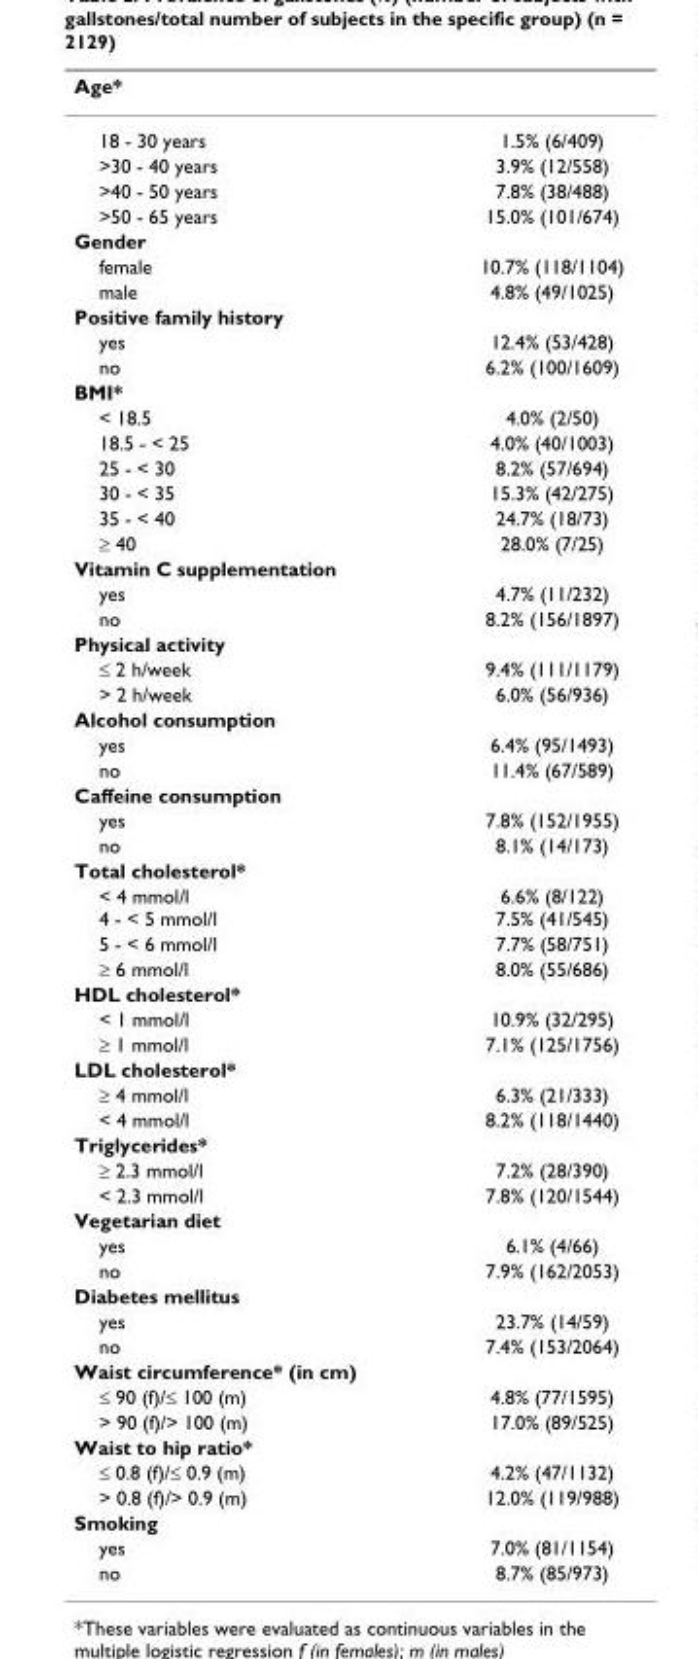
<table><thead><tr><td>Age*</td><td></td></tr></thead><tbody><tr><td>18 - 30 years</td><td>1.5% (6/409)</td></tr><tr><td>&gt;30 - 40 years</td><td>3.9% (12/558)</td></tr><tr><td>&gt;40 - 50 years</td><td>7.8% (38/488)</td></tr><tr><td>&gt;50 - 65 years</td><td>15.0% (101/674)</td></tr><tr><td colspan="2">Gender</td></tr><tr><td>female</td><td>10.7% (118/1104)</td></tr><tr><td>male</td><td>4.8% (49/1025)</td></tr><tr><td colspan="2">Positive family history</td></tr><tr><td>yes</td><td>12.4% (53/428)</td></tr><tr><td>no</td><td>6.2% (100/1609)</td></tr><tr><td colspan="2">BMI*</td></tr><tr><td>&lt; 18.5</td><td>4.0% (2/50)</td></tr><tr><td>18.5 - &lt; 25</td><td>4.0% (40/1003)</td></tr><tr><td>25 - &lt; 30</td><td>8.2% (57/694)</td></tr><tr><td>30 - &lt; 35</td><td>15.3% (42/275)</td></tr><tr><td>35 - &lt; 40</td><td>24.7% (18/73)</td></tr><tr><td>≥ 40</td><td>28.0% (7/25)</td></tr><tr><td colspan="2">Vitamin C supplementation</td></tr><tr><td>yes</td><td>4.7% (11/232)</td></tr><tr><td>no</td><td>8.2% (156/1897)</td></tr><tr><td colspan="2">Physical activity</td></tr><tr><td>≤ 2 h/week</td><td>9.4% (111/1179)</td></tr><tr><td>&gt; 2 h/week</td><td>6.0% (56/936)</td></tr><tr><td colspan="2">Alcohol consumption</td></tr><tr><td>yes</td><td>6.4% (95/1493)</td></tr><tr><td>no</td><td>11.4% (67/589)</td></tr><tr><td colspan="2">Caffeine consumption</td></tr><tr><td>yes</td><td>7.8% (152/1955)</td></tr><tr><td>no</td><td>8.1% (14/173)</td></tr><tr><td colspan="2">Total cholesterol*</td></tr><tr><td>&lt; 4 mmol/l 4 - &lt; 5 mmol/l</td><td>6.6% (8/122) 7.5% (41/545)</td></tr><tr><td>5 - &lt; 6 mmol/l</td><td>7.7% (58/751)</td></tr><tr><td>≥ 6 mmol/l</td><td>8.0% (55/686)</td></tr><tr><td colspan="2">HDL cholesterol*</td></tr><tr><td>&lt; 1 mmol/l</td><td>10.9% (32/295)</td></tr><tr><td>≥ 1 mmol/l</td><td>7.1% (125/1756)</td></tr><tr><td colspan="2">LDL cholesterol*</td></tr><tr><td>≥ 4 mmol/l</td><td>6.3% (21/333)</td></tr><tr><td>&lt; 4 mmol/l</td><td>8.2% (118/1440)</td></tr><tr><td colspan="2">Triglycerides*</td></tr><tr><td>≥ 2.3 mmol/l</td><td>7.2% (28/390)</td></tr><tr><td>&lt; 2.3 mmol/l</td><td>7.8% (120/1544)</td></tr><tr><td colspan="2">Vegetarian diet</td></tr><tr><td>yes</td><td>6.1% (4/66)</td></tr><tr><td>no</td><td>7.9% (162/2053)</td></tr><tr><td colspan="2">Diabetes mellitus</td></tr><tr><td>yes</td><td>23.7% (14/59)</td></tr><tr><td>no</td><td>7.4% (153/2064)</td></tr><tr><td colspan="2">Waist circumference* (in cm)</td></tr><tr><td>≤ 90 (f)/≤ 100 (m)</td><td>4.8% (77/1595)</td></tr><tr><td>&gt; 90 (f)/&gt; 100 (m)</td><td>17.0% (89/525)</td></tr><tr><td colspan="2">Waist to hip ratio*</td></tr><tr><td>≤ 0.8 (f)/≤ 0.9 (m)</td><td>4.2% (47/1132)</td></tr><tr><td>&gt; 0.8 (f)/&gt; 0.9 (m)</td><td>12.0% (119/988)</td></tr><tr><td colspan="2">Smoking</td></tr><tr><td>yes</td><td>7.0% (81/1154)</td></tr><tr><td>no</td><td>8.7% (85/973)</td></tr></tbody></table>